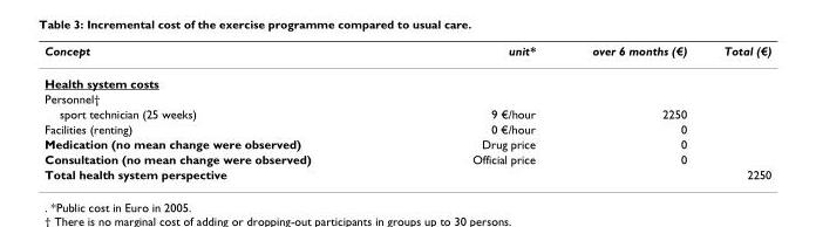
<table><thead><tr><td>Concept</td><td>unit*</td><td>over 6 months (€)</td><td>Total (€)</td></tr></thead><tbody><tr><td colspan="4">Health system costs</td></tr><tr><td colspan="4">Personnel†</td></tr><tr><td>sport technician (25 weeks)</td><td>9 €/hour</td><td>2250</td><td></td></tr><tr><td>Facilities (renting)</td><td>0 €/hour</td><td>0</td><td></td></tr><tr><td>Medication (no mean change were observed)</td><td>Drug price</td><td>0</td><td></td></tr><tr><td>Consultation (no mean change were observed)</td><td>Official price</td><td>0</td><td></td></tr><tr><td>Total health system perspective</td><td></td><td></td><td>2250</td></tr></tbody></table>